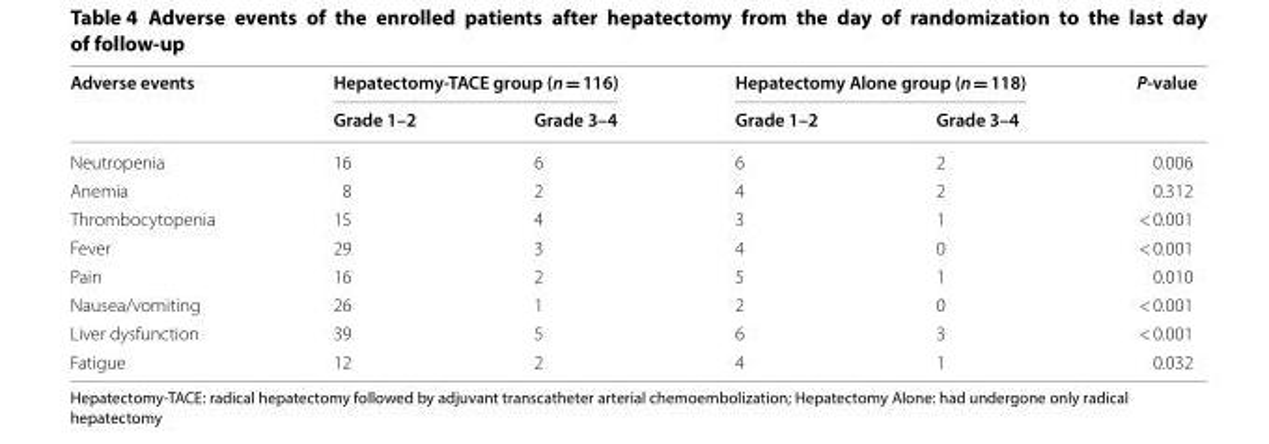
<table><thead><tr><td rowspan="2">Adverse events</td><td colspan="2">Hepatectomy‑TACE group (n = 116)</td><td colspan="2">Hepatectomy Alone group (n = 118)</td><td rowspan="2">P‑value</td></tr><tr><td>Grade 1–2</td><td>Grade 3–4</td><td>Grade 1–2</td><td>Grade 3–4</td></tr></thead><tbody><tr><td>Neutropenia</td><td>16</td><td>6</td><td>6</td><td>2</td><td>0.006</td></tr><tr><td>Anemia</td><td>8</td><td>2</td><td>4</td><td>2</td><td>0.312</td></tr><tr><td>Thrombocytopenia</td><td>15</td><td>4</td><td>3</td><td>1</td><td>&lt; 0.001</td></tr><tr><td>Fever</td><td>29</td><td>3</td><td>4</td><td>0</td><td>&lt; 0.001</td></tr><tr><td>Pain</td><td>16</td><td>2</td><td>5</td><td>1</td><td>0.010</td></tr><tr><td>Nausea/vomiting</td><td>26</td><td>1</td><td>2</td><td>0</td><td>&lt; 0.001</td></tr><tr><td>Liver dysfunction</td><td>39</td><td>5</td><td>6</td><td>3</td><td>&lt; 0.001</td></tr><tr><td>Fatigue</td><td>12</td><td>2</td><td>4</td><td>1</td><td>0.032</td></tr></tbody></table>